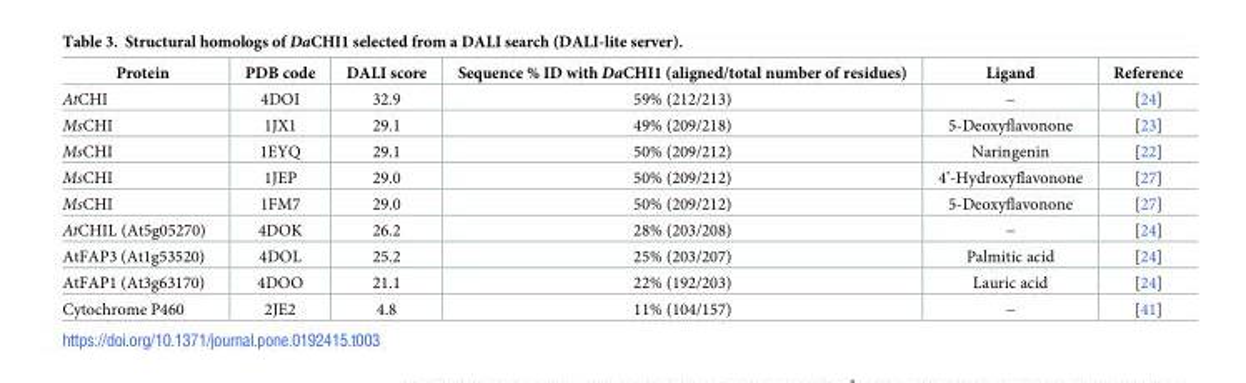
<table><thead><tr><td>Protein</td><td>PDB code</td><td>DALI score</td><td>Sequence % ID with DaCHI1 (aligned/total number of residues)</td><td>Ligand</td><td>Reference</td></tr></thead><tbody><tr><td>AtCHI</td><td>4DOI</td><td>32.9</td><td>59% (212/213)</td><td>−</td><td>[24]</td></tr><tr><td>MsCHI</td><td>1JX1</td><td>29.1</td><td>49% (209/218)</td><td>5-Deoxyflavonone</td><td>[23]</td></tr><tr><td>MsCHI</td><td>1EYQ</td><td>29.1</td><td>50% (209/212)</td><td>Naringenin</td><td>[22]</td></tr><tr><td>MsCHI</td><td>1JEP</td><td>29.0</td><td>50% (209/212)</td><td>4’-Hydroxyflavonone</td><td>[27]</td></tr><tr><td>MsCHI</td><td>1FM7</td><td>29.0</td><td>50% (209/212)</td><td>5-Deoxyflavonone</td><td>[27]</td></tr><tr><td>AtCHIL (At5g05270)</td><td>4DOK</td><td>26.2</td><td>28% (203/208)</td><td>−</td><td>[24]</td></tr><tr><td>AtFAP3 (At1g53520)</td><td>4DOL</td><td>25.2</td><td>25% (203/207)</td><td>Palmitic acid</td><td>[24]</td></tr><tr><td>AtFAP1 (At3g63170)</td><td>4DOO</td><td>21.1</td><td>22% (192/203)</td><td>Lauric acid</td><td>[24]</td></tr><tr><td>Cytochrome P460</td><td>2JE2</td><td>4.8</td><td>11% (104/157)</td><td>−</td><td>[41]</td></tr></tbody></table>